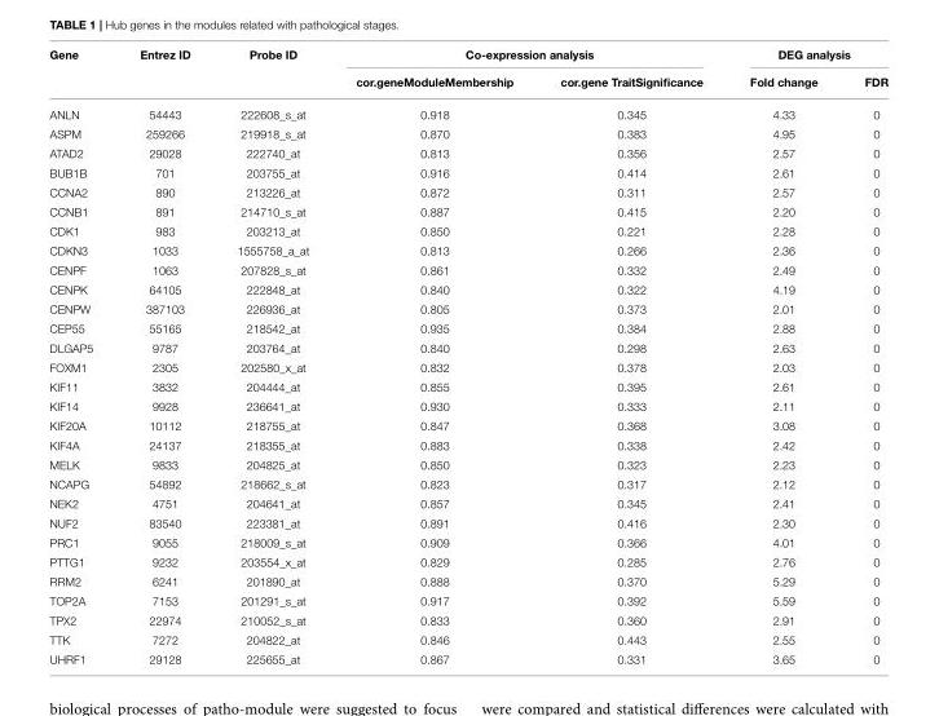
<table><thead><tr><td rowspan="2">Gene</td><td rowspan="2">Entrez ID</td><td rowspan="2">Probe ID</td><td colspan="2">Co-expression analysis</td><td colspan="2">DEG analysis</td></tr><tr><td>cor.geneModuleMembership</td><td>cor.gene TraitSignificance</td><td>Fold change</td><td>FDR</td></tr></thead><tbody><tr><td>ANLN</td><td>54443</td><td>222608_s_at</td><td>0.918</td><td>0.345</td><td>4.33</td><td>0</td></tr><tr><td>ASPM</td><td>259266</td><td>219918_s_at</td><td>0.870</td><td>0.383</td><td>4.95</td><td>0</td></tr><tr><td>ATAD2</td><td>29028</td><td>222740_at</td><td>0.813</td><td>0.356</td><td>2.57</td><td>0</td></tr><tr><td>BUB1B</td><td>701</td><td>203755_at</td><td>0.916</td><td>0.414</td><td>2.61</td><td>0</td></tr><tr><td>CCNA2</td><td>890</td><td>213226_at</td><td>0.872</td><td>0.311</td><td>2.57</td><td>0</td></tr><tr><td>CCNB1</td><td>891</td><td>214710_s_at</td><td>0.887</td><td>0.415</td><td>2.20</td><td>0</td></tr><tr><td>CDK1</td><td>983</td><td>203213_at</td><td>0.850</td><td>0.221</td><td>2.28</td><td>0</td></tr><tr><td>CDKN3</td><td>1033</td><td>1555758_a_at</td><td>0.813</td><td>0.266</td><td>2.36</td><td>0</td></tr><tr><td>CENPF</td><td>1063</td><td>207828_s_at</td><td>0.861</td><td>0.332</td><td>2.49</td><td>0</td></tr><tr><td>CENPK</td><td>64105</td><td>222848_at</td><td>0.840</td><td>0.322</td><td>4.19</td><td>0</td></tr><tr><td>CENPW</td><td>387103</td><td>226936_at</td><td>0.805</td><td>0.373</td><td>2.01</td><td>0</td></tr><tr><td>CEP55</td><td>55165</td><td>218542_at</td><td>0.935</td><td>0.384</td><td>2.88</td><td>0</td></tr><tr><td>DLGAP5</td><td>9787</td><td>203764_at</td><td>0.840</td><td>0.298</td><td>2.63</td><td>0</td></tr><tr><td>FOXM1</td><td>2305</td><td>202580_x_at</td><td>0.832</td><td>0.378</td><td>2.03</td><td>0</td></tr><tr><td>KIF11</td><td>3832</td><td>204444_at</td><td>0.855</td><td>0.395</td><td>2.61</td><td>0</td></tr><tr><td>KIF14</td><td>9928</td><td>236641_at</td><td>0.930</td><td>0.333</td><td>2.11</td><td>0</td></tr><tr><td>KIF20A</td><td>10112</td><td>218755_at</td><td>0.847</td><td>0.368</td><td>3.08</td><td>0</td></tr><tr><td>KIF4A</td><td>24137</td><td>218355_at</td><td>0.883</td><td>0.338</td><td>2.42</td><td>0</td></tr><tr><td>MELK</td><td>9833</td><td>204825_at</td><td>0.850</td><td>0.323</td><td>2.23</td><td>0</td></tr><tr><td>NCAPG</td><td>54892</td><td>218662_s_at</td><td>0.823</td><td>0.317</td><td>2.12</td><td>0</td></tr><tr><td>NEK2</td><td>4751</td><td>204641_at</td><td>0.857</td><td>0.345</td><td>2.41</td><td>0</td></tr><tr><td>NUF2</td><td>83540</td><td>223381_at</td><td>0.891</td><td>0.416</td><td>2.30</td><td>0</td></tr><tr><td>PRC1</td><td>9055</td><td>218009_s_at</td><td>0.909</td><td>0.366</td><td>4.01</td><td>0</td></tr><tr><td>PTTG1</td><td>9232</td><td>203554_x_at</td><td>0.829</td><td>0.285</td><td>2.76</td><td>0</td></tr><tr><td>RRM2</td><td>6241</td><td>201890_at</td><td>0.888</td><td>0.370</td><td>5.29</td><td>0</td></tr><tr><td>TOP2A</td><td>7153</td><td>201291_s_at</td><td>0.917</td><td>0.392</td><td>5.59</td><td>0</td></tr><tr><td>TPX2</td><td>22974</td><td>210052_s_at</td><td>0.833</td><td>0.360</td><td>2.91</td><td>0</td></tr><tr><td>TTK</td><td>7272</td><td>204822_at</td><td>0.846</td><td>0.443</td><td>2.55</td><td>0</td></tr><tr><td>UHRF1</td><td>29128</td><td>225655_at</td><td>0.867</td><td>0.331</td><td>3.65</td><td>0</td></tr></tbody></table>